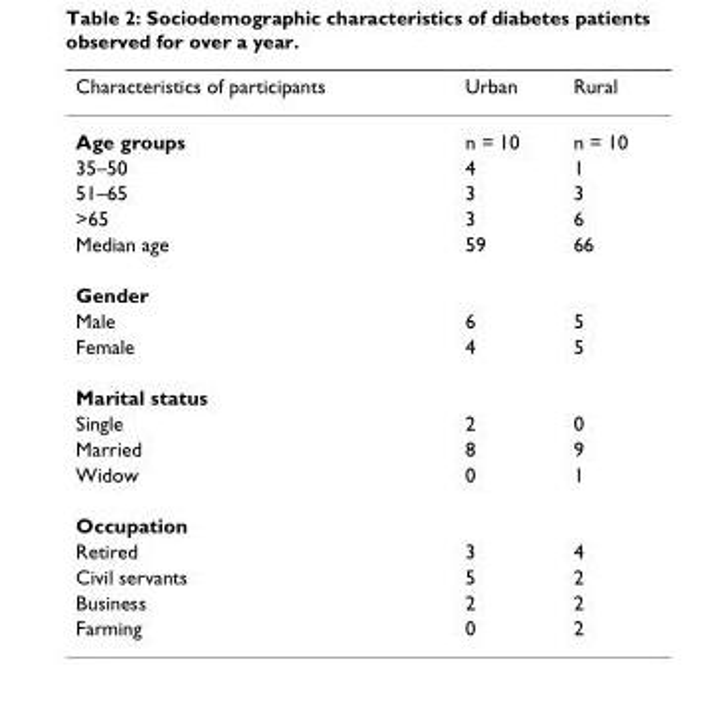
<table><thead><tr><td>Characteristics of participants</td><td>Urban</td><td>Rural</td></tr></thead><tbody><tr><td>Age groups</td><td>n = 10</td><td>n = 10</td></tr><tr><td>35–50</td><td>4</td><td>1</td></tr><tr><td>51–65</td><td>3</td><td>3</td></tr><tr><td>&gt;65</td><td>3</td><td>6</td></tr><tr><td>Median age</td><td>59</td><td>66</td></tr><tr><td colspan="3">Gender</td></tr><tr><td>Male</td><td>6</td><td>5</td></tr><tr><td>Female</td><td>4</td><td>5</td></tr><tr><td colspan="3">Marital status</td></tr><tr><td>Single</td><td>2</td><td>0</td></tr><tr><td>Married</td><td>8</td><td>9</td></tr><tr><td>Widow</td><td>0</td><td>1</td></tr><tr><td colspan="3">Occupation</td></tr><tr><td>Retired</td><td>3</td><td>4</td></tr><tr><td>Civil servants</td><td>5</td><td>2</td></tr><tr><td>Business</td><td>2</td><td>2</td></tr><tr><td>Farming</td><td>0</td><td>2</td></tr></tbody></table>